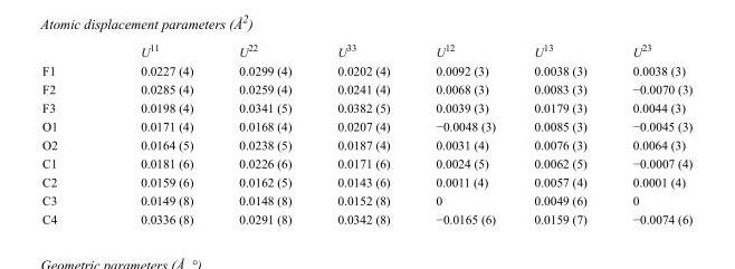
<table><thead><tr><td></td><td>U<sup>11</sup></td><td>U<sup>22</sup></td><td>U<sup>33</sup></td><td>U<sup>12</sup></td><td>U<sup>13</sup></td><td>U<sup>23</sup></td></tr></thead><tbody><tr><td>F1</td><td>0.0227 (4)</td><td>0.0299 (4)</td><td>0.0202 (4)</td><td>0.0092 (3)</td><td>0.0038 (3)</td><td>0.0038 (3)</td></tr><tr><td>F2</td><td>0.0285 (4)</td><td>0.0259 (4)</td><td>0.0241 (4)</td><td>0.0068 (3)</td><td>0.0083 (3)</td><td>−0.0070 (3)</td></tr><tr><td>F3</td><td>0.0198 (4)</td><td>0.0341 (5)</td><td>0.0382 (5)</td><td>0.0039 (3)</td><td>0.0179 (3)</td><td>0.0044 (3)</td></tr><tr><td>O1</td><td>0.0171 (4)</td><td>0.0168 (4)</td><td>0.0207 (4)</td><td>−0.0048 (3)</td><td>0.0085 (3)</td><td>−0.0045 (3)</td></tr><tr><td>O2</td><td>0.0164 (5)</td><td>0.0238 (5)</td><td>0.0187 (4)</td><td>0.0031 (4)</td><td>0.0076 (3)</td><td>0.0064 (3)</td></tr><tr><td>C1</td><td>0.0181 (6)</td><td>0.0226 (6)</td><td>0.0171 (6)</td><td>0.0024 (5)</td><td>0.0062 (5)</td><td>−0.0007 (4)</td></tr><tr><td>C2</td><td>0.0159 (6)</td><td>0.0162 (5)</td><td>0.0143 (6)</td><td>0.0011 (4)</td><td>0.0057 (4)</td><td>0.0001 (4)</td></tr><tr><td>C3</td><td>0.0149 (8)</td><td>0.0148 (8)</td><td>0.0152 (8)</td><td>0</td><td>0.0049 (6)</td><td>0</td></tr><tr><td>C4</td><td>0.0336 (8)</td><td>0.0291 (8)</td><td>0.0342 (8)</td><td>−0.0165 (6)</td><td>0.0159 (7)</td><td>−0.0074 (6)</td></tr></tbody></table>